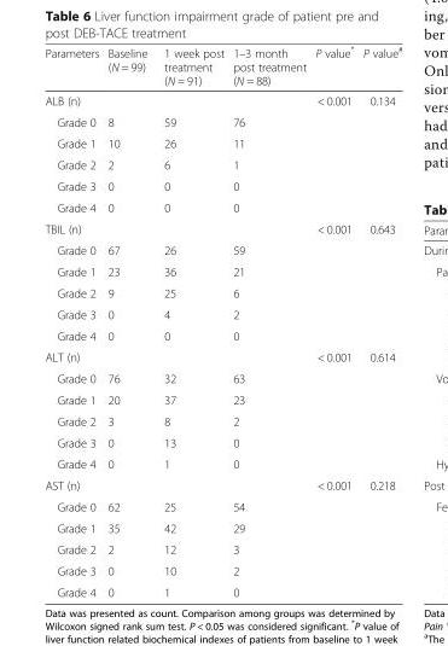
<table><thead><tr><td>Parameters</td><td>Baseline (N = 99)</td><td>1 week post treatment (N = 91)</td><td>1–3 month post treatment (N = 88)</td><td>P value*</td><td>P value<sup>#</sup></td></tr></thead><tbody><tr><td colspan="4">ALB (n)</td><td rowspan="6">&lt; 0.001</td><td rowspan="6">0.134</td></tr><tr><td>Grade 0</td><td>8</td><td>59</td><td>76</td></tr><tr><td>Grade 1</td><td>10</td><td>26</td><td>11</td></tr><tr><td>Grade 2</td><td>2</td><td>6</td><td>1</td></tr><tr><td>Grade 3</td><td>0</td><td>0</td><td>0</td></tr><tr><td>Grade 4</td><td>0</td><td>0</td><td>0</td></tr><tr><td colspan="4">TBIL (n)</td><td rowspan="6">&lt; 0.001</td><td rowspan="6">0.643</td></tr><tr><td>Grade 0</td><td>67</td><td>26</td><td>59</td></tr><tr><td>Grade 1</td><td>23</td><td>36</td><td>21</td></tr><tr><td>Grade 2</td><td>9</td><td>25</td><td>6</td></tr><tr><td>Grade 3</td><td>0</td><td>4</td><td>2</td></tr><tr><td>Grade 4</td><td>0</td><td>0</td><td>0</td></tr><tr><td colspan="4">ALT (n)</td><td rowspan="6">&lt; 0.001</td><td rowspan="6">0.614</td></tr><tr><td>Grade 0</td><td>76</td><td>32</td><td>63</td></tr><tr><td>Grade 1</td><td>20</td><td>37</td><td>23</td></tr><tr><td>Grade 2</td><td>3</td><td>8</td><td>2</td></tr><tr><td>Grade 3</td><td>0</td><td>13</td><td>0</td></tr><tr><td>Grade 4</td><td>0</td><td>1</td><td>0</td></tr><tr><td colspan="4">AST (n)</td><td rowspan="6">&lt; 0.001</td><td rowspan="6">0.218</td></tr><tr><td>Grade 0</td><td>62</td><td>25</td><td>54</td></tr><tr><td>Grade 1</td><td>35</td><td>42</td><td>29</td></tr><tr><td>Grade 2</td><td>2</td><td>12</td><td>3</td></tr><tr><td>Grade 3</td><td>0</td><td>10</td><td>2</td></tr><tr><td>Grade 4</td><td>0</td><td>1</td><td>0</td></tr></tbody></table>